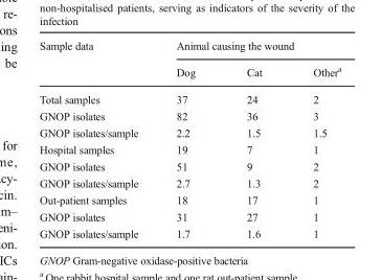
<table><thead><tr><td rowspan="2">Sample data</td><td colspan="3">Animal causing the wound</td></tr><tr><td>Dog</td><td>Cat</td><td>Other<sup>a</sup></td></tr></thead><tbody><tr><td>Total samples</td><td>37</td><td>24</td><td>2</td></tr><tr><td>GNOP isolates</td><td>82</td><td>36</td><td>3</td></tr><tr><td>GNOP isolates/sample</td><td>2.2</td><td>1.5</td><td>1.5</td></tr><tr><td>Hospital samples</td><td>19</td><td>7</td><td>1</td></tr><tr><td>GNOP isolates</td><td>51</td><td>9</td><td>2</td></tr><tr><td>GNOP isolates/sample</td><td>2.7</td><td>1.3</td><td>2</td></tr><tr><td>Out-patient samples</td><td>18</td><td>17</td><td>1</td></tr><tr><td>GNOP isolates</td><td>31</td><td>27</td><td>1</td></tr><tr><td>GNOP isolates/sample</td><td>1.7</td><td>1.6</td><td>1</td></tr></tbody></table>